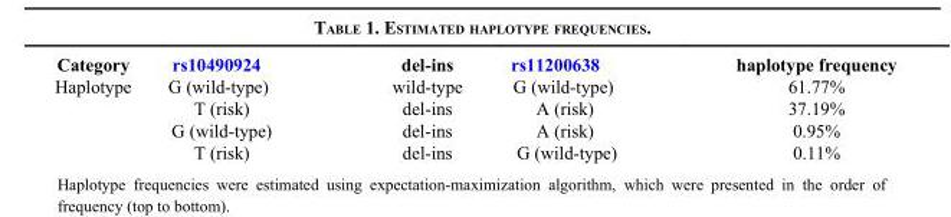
<table><thead><tr><td>Category</td><td>rs10490924</td><td>del-ins</td><td>rs11200638</td><td>haplotype frequency</td></tr></thead><tbody><tr><td rowspan="4">Haplotype</td><td>G (wild-type)</td><td>wild-type</td><td>G (wild-type)</td><td>61.77%</td></tr><tr><td>T (risk)</td><td>del-ins</td><td>A (risk)</td><td>37.19%</td></tr><tr><td>G (wild-type)</td><td>del-ins</td><td>A (risk)</td><td>0.95%</td></tr><tr><td>T (risk)</td><td>del-ins</td><td>G (wild-type)</td><td>0.11%</td></tr></tbody></table>